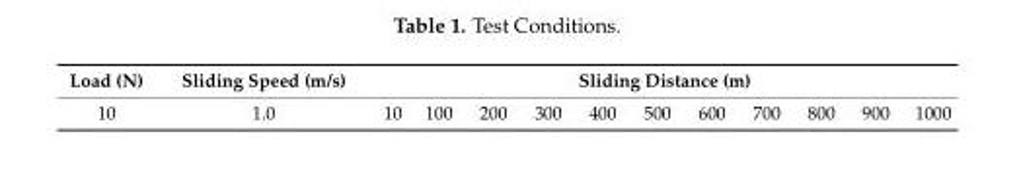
<table><thead><tr><td rowspan="2">Load (N) 10</td><td rowspan="2">Sliding Speed (m/s) 1.0</td><td colspan="11">Sliding Distance (m)</td></tr><tr><td>10</td><td>100</td><td>200</td><td>300</td><td>400</td><td>500</td><td>600</td><td>700</td><td>800</td><td>900</td><td>1000</td></tr></thead><tbody></tbody></table>